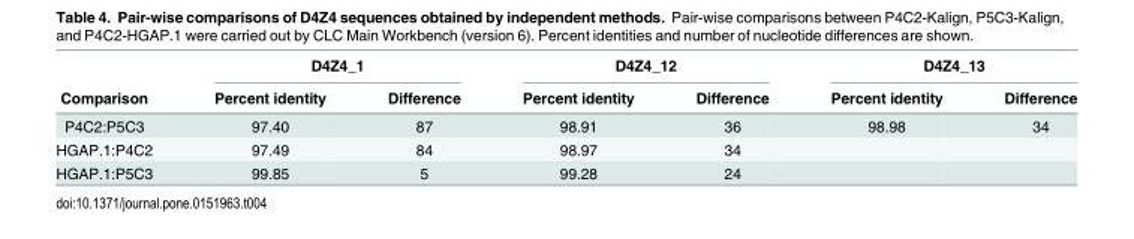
<table><thead><tr><td rowspan="2">Comparison</td><td colspan="2">D4Z4_1</td><td colspan="2">D4Z4_12</td><td colspan="2">D4Z4_13</td></tr><tr><td>Percent identity</td><td>Difference</td><td>Percent identity</td><td>Difference</td><td>Percent identity</td><td>Difference</td></tr></thead><tbody><tr><td>P4C2:P5C3</td><td>97.40</td><td>87</td><td>98.91</td><td>36</td><td>98.98</td><td>34</td></tr><tr><td>HGAP.1:P4C2</td><td>97.49</td><td>84</td><td>98.97</td><td>34</td><td></td><td></td></tr><tr><td>HGAP.1:P5C3</td><td>99.85</td><td>5</td><td>99.28</td><td>24</td><td></td><td></td></tr></tbody></table>